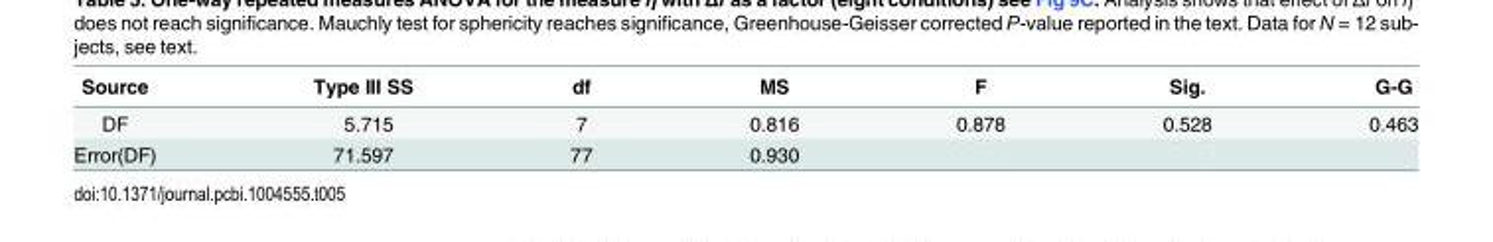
<table><thead><tr><td>Source</td><td>Type III SS</td><td>df</td><td>MS</td><td>F</td><td>Sig.</td><td>G-G</td></tr></thead><tbody><tr><td>DF</td><td>5.715</td><td>7</td><td>0.816</td><td>0.878</td><td>0.528</td><td>0.463</td></tr><tr><td>Error(DF)</td><td>71.597</td><td>77</td><td>0.930</td><td></td><td></td><td></td></tr></tbody></table>